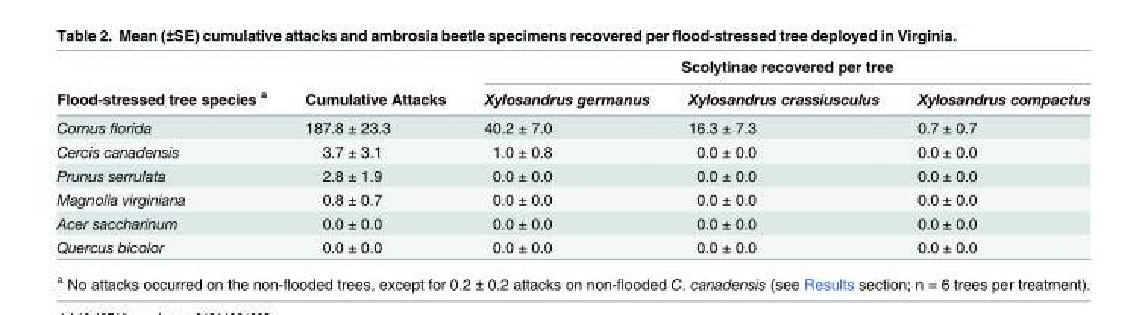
<table><thead><tr><td rowspan="2">Flood-stressed tree species <sup>a</sup></td><td rowspan="2">Cumulative Attacks</td><td colspan="3">Scolytinae recovered per tree</td></tr><tr><td>Xylosandrus germanus</td><td>Xylosandrus crassiusculus</td><td>Xylosandrus compactus</td></tr></thead><tbody><tr><td>Cornus florida</td><td>187.8 ± 23.3</td><td>40.2 ± 7.0</td><td>16.3 ± 7.3</td><td>0.7 ± 0.7</td></tr><tr><td>Cercis canadensis</td><td>3.7 ± 3.1</td><td>1.0 ± 0.8</td><td>0.0 ± 0.0</td><td>0.0 ± 0.0</td></tr><tr><td>Prunus serrulata</td><td>2.8 ± 1.9</td><td>0.0 ± 0.0</td><td>0.0 ± 0.0</td><td>0.0 ± 0.0</td></tr><tr><td>Magnolia virginiana</td><td>0.8 ± 0.7</td><td>0.0 ± 0.0</td><td>0.0 ± 0.0</td><td>0.0 ± 0.0</td></tr><tr><td>Acer saccharinum</td><td>0.0 ± 0.0</td><td>0.0 ± 0.0</td><td>0.0 ± 0.0</td><td>0.0 ± 0.0</td></tr><tr><td>Quercus bicolor</td><td>0.0 ± 0.0</td><td>0.0 ± 0.0</td><td>0.0 ± 0.0</td><td>0.0 ± 0.0</td></tr></tbody></table>